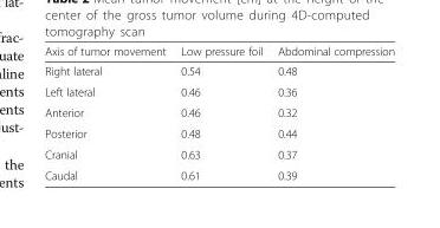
<table><thead><tr><td>Axis of tumor movement</td><td>Low pressure foil</td><td>Abdominal compression</td></tr></thead><tbody><tr><td>Right lateral</td><td>0.54</td><td>0.48</td></tr><tr><td>Left lateral</td><td>0.46</td><td>0.36</td></tr><tr><td>Anterior</td><td>0.46</td><td>0.32</td></tr><tr><td>Posterior</td><td>0.48</td><td>0.44</td></tr><tr><td>Cranial</td><td>0.63</td><td>0.37</td></tr><tr><td>Caudal</td><td>0.61</td><td>0.39</td></tr></tbody></table>